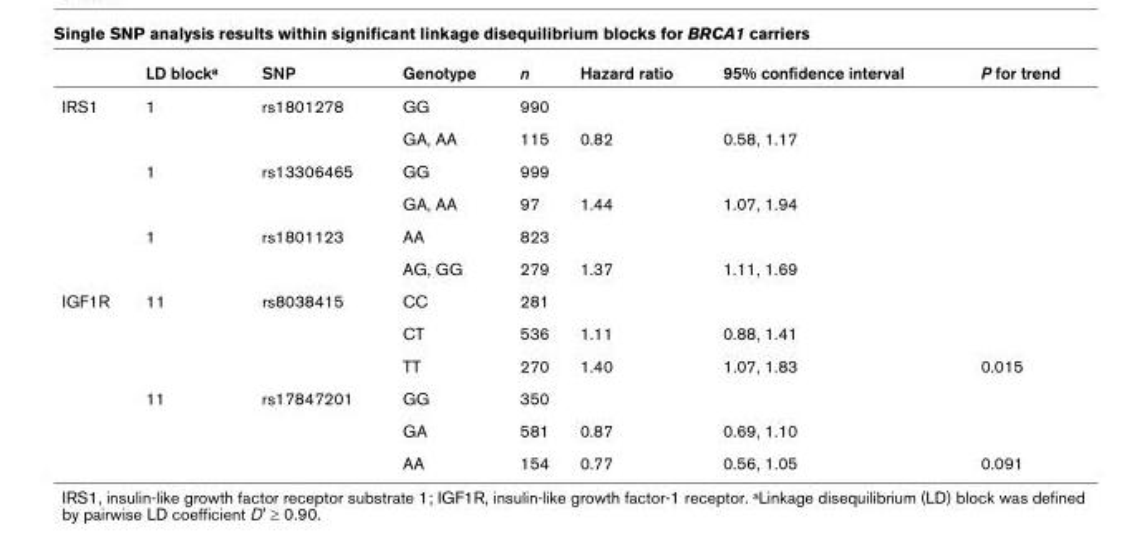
<table><thead><tr><td></td><td>LD block<sup>a</sup></td><td>SNP</td><td>Genotype</td><td>n</td><td>Hazard ratio</td><td>95% confidence interval</td><td>P for trend</td></tr></thead><tbody><tr><td rowspan="6">IRS1</td><td>1</td><td>rs1801278</td><td>GG</td><td>990</td><td></td><td></td><td></td></tr><tr><td></td><td></td><td>GA, AA</td><td>115</td><td>0.82</td><td>0.58, 1.17</td><td></td></tr><tr><td>1</td><td>rs13306465</td><td>GG</td><td>999</td><td></td><td></td><td></td></tr><tr><td></td><td></td><td>GA, AA</td><td>97</td><td>1.44</td><td>1.07, 1.94</td><td></td></tr><tr><td>1</td><td>rs1801123</td><td>AA</td><td>823</td><td></td><td></td><td></td></tr><tr><td></td><td></td><td>AG, GG</td><td>279</td><td>1.37</td><td>1.11, 1.69</td><td></td></tr><tr><td rowspan="6">IGF1R</td><td>11</td><td>rs8038415</td><td>CC</td><td>281</td><td></td><td></td><td></td></tr><tr><td></td><td></td><td>CT</td><td>536</td><td>1.11</td><td>0.88, 1.41</td><td></td></tr><tr><td></td><td></td><td>TT</td><td>270</td><td>1.40</td><td>1.07, 1.83</td><td>0.015</td></tr><tr><td>11</td><td>rs17847201</td><td>GG</td><td>350</td><td></td><td></td><td></td></tr><tr><td></td><td></td><td>GA</td><td>581</td><td>0.87</td><td>0.69, 1.10</td><td></td></tr><tr><td></td><td></td><td>AA</td><td>154</td><td>0.77</td><td>0.56, 1.05</td><td>0.091</td></tr></tbody></table>